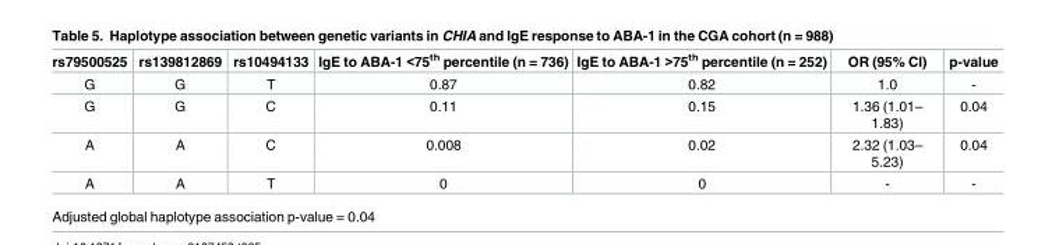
<table><thead><tr><td>rs79500525</td><td>rs139812869</td><td>rs10494133</td><td>IgE to ABA-1 &lt;75<sup>th</sup> percentile (n = 736)</td><td>IgE to ABA-1 &gt;75<sup>th</sup> percentile (n = 252)</td><td>OR (95% CI)</td><td>p-value</td></tr></thead><tbody><tr><td>G</td><td>G</td><td>T</td><td>0.87</td><td>0.82</td><td>1.0</td><td>-</td></tr><tr><td>G</td><td>G</td><td>C</td><td>0.11</td><td>0.15</td><td>1.36 (1.01– 1.83)</td><td>0.04</td></tr><tr><td>A</td><td>A</td><td>C</td><td>0.008</td><td>0.02</td><td>2.32 (1.03– 5.23)</td><td>0.04</td></tr><tr><td>A</td><td>A</td><td>T</td><td>0</td><td>0</td><td>-</td><td>-</td></tr></tbody></table>